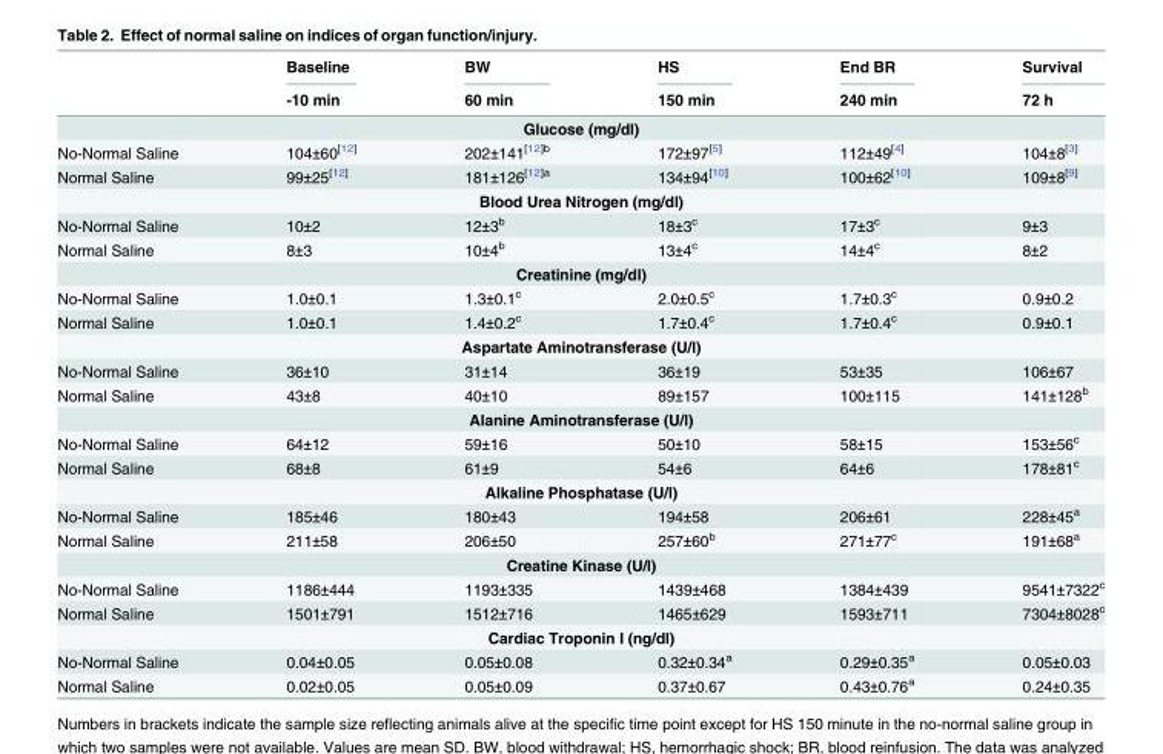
<table><thead><tr><td rowspan="2"></td><td rowspan="2">Baseline -10 min</td><td rowspan="2">BW 60 min</td><td rowspan="2">HS 150 min</td><td rowspan="2">End BR 240 min</td><td rowspan="2">Survival 72 h</td></tr><tr></tr></thead><tbody><tr><td colspan="6">Glucose (mg/dl)</td></tr><tr><td>No-Normal Saline</td><td>104±60<sup>[12]</sup></td><td>202±141<sup>[12]b</sup></td><td>172±97<sup>[5]</sup></td><td>112±49<sup>[4]</sup></td><td>104±8<sup>[3]</sup></td></tr><tr><td>Normal Saline</td><td>99±25<sup>[12]</sup></td><td>181±126<sup>[12]a</sup></td><td>134±94<sup>[10]</sup></td><td>100±62<sup>[10]</sup></td><td>109±8<sup>[9]</sup></td></tr><tr><td colspan="6">Blood Urea Nitrogen (mg/dl)</td></tr><tr><td>No-Normal Saline</td><td>10±2</td><td>12±3<sup>b</sup></td><td>18±3<sup>c</sup></td><td>17±3<sup>c</sup></td><td>9±3</td></tr><tr><td>Normal Saline</td><td>8±3</td><td>10±4<sup>b</sup></td><td>13±4<sup>c</sup></td><td>14±4<sup>c</sup></td><td>8±2</td></tr><tr><td colspan="6">Creatinine (mg/dl)</td></tr><tr><td>No-Normal Saline</td><td>1.0±0.1</td><td>1.3±0.1<sup>c</sup></td><td>2.0±0.5<sup>c</sup></td><td>1.7±0.3<sup>c</sup></td><td>0.9±0.2</td></tr><tr><td>Normal Saline</td><td>1.0±0.1</td><td>1.4±0.2<sup>c</sup></td><td>1.7±0.4<sup>c</sup></td><td>1.7±0.4<sup>c</sup></td><td>0.9±0.1</td></tr><tr><td colspan="6">Aspartate Aminotransferase (U/l)</td></tr><tr><td>No-Normal Saline</td><td>36±10</td><td>31±14</td><td>36±19</td><td>53±35</td><td>106±67</td></tr><tr><td>Normal Saline</td><td>43±8</td><td>40±10</td><td>89±157</td><td>100±115</td><td>141±128<sup>b</sup></td></tr><tr><td colspan="6">Alanine Aminotransferase (U/l)</td></tr><tr><td>No-Normal Saline</td><td>64±12</td><td>59±16</td><td>50±10</td><td>58±15</td><td>153±56<sup>c</sup></td></tr><tr><td>Normal Saline</td><td>68±8</td><td>61±9</td><td>54±6</td><td>64±6</td><td>178±81<sup>c</sup></td></tr><tr><td colspan="6">Alkaline Phosphatase (U/l)</td></tr><tr><td>No-Normal Saline</td><td>185±46</td><td>180±43</td><td>194±58</td><td>206±61</td><td>228±45<sup>a</sup></td></tr><tr><td>Normal Saline</td><td>211±58</td><td>206±50</td><td>257±60<sup>b</sup></td><td>271±77<sup>c</sup></td><td>191±68<sup>a</sup></td></tr><tr><td colspan="6">Creatine Kinase (U/l)</td></tr><tr><td>No-Normal Saline</td><td>1186±444</td><td>1193±335</td><td>1439±468</td><td>1384±439</td><td>9541±7322<sup>c</sup></td></tr><tr><td>Normal Saline</td><td>1501±791</td><td>1512±716</td><td>1465±629</td><td>1593±711</td><td>7304±8028<sup>c</sup></td></tr><tr><td colspan="6">Cardiac Troponin I (ng/dl)</td></tr><tr><td>No-Normal Saline</td><td>0.04±0.05</td><td>0.05±0.08</td><td>0.32±0.34<sup>a</sup></td><td>0.29±0.35<sup>a</sup></td><td>0.05±0.03</td></tr><tr><td>Normal Saline</td><td>0.02±0.05</td><td>0.05±0.09</td><td>0.37±0.67</td><td>0.43±0.76<sup>a</sup></td><td>0.24±0.35</td></tr></tbody></table>